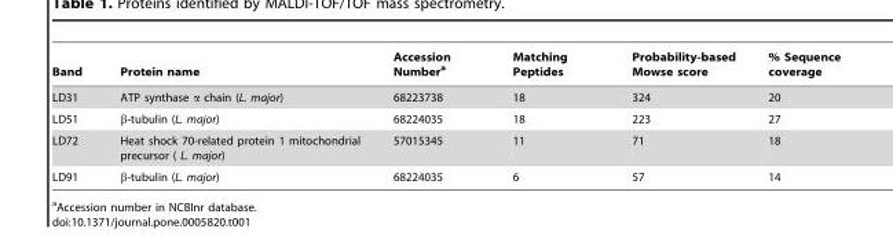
<table><thead><tr><td>Band</td><td>Protein name</td><td>Accession Number<sup>a</sup></td><td>Matching Peptides</td><td>Probability-based Mowse score</td><td>% Sequence coverage</td></tr></thead><tbody><tr><td>LD31</td><td>ATP synthase α chain (L. major)</td><td>68223738</td><td>18</td><td>324</td><td>20</td></tr><tr><td>LD51</td><td>β-tubulin (L. major)</td><td>68224035</td><td>18</td><td>223</td><td>27</td></tr><tr><td>LD72</td><td>Heat shock 70-related protein 1 mitochondrial precursor ( L. major)</td><td>57015345</td><td>11</td><td>71</td><td>18</td></tr><tr><td>LD91</td><td>β-tubulin (L. major)</td><td>68224035</td><td>6</td><td>57</td><td>14</td></tr></tbody></table>